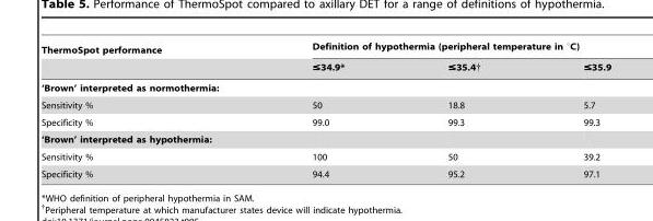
<table><thead><tr><td rowspan="2">ThermoSpot performance</td><td colspan="3">Definition of hypothermia (peripheral temperature in °C)</td></tr><tr><td>≤34.9*</td><td>≤35.4†</td><td>≤35.9</td></tr></thead><tbody><tr><td colspan="4">‘Brown’ interpreted as normothermia:</td></tr><tr><td>Sensitivity %</td><td>50</td><td>18.8</td><td>5.7</td></tr><tr><td>Specificity %</td><td>99.0</td><td>99.3</td><td>99.3</td></tr><tr><td colspan="4">‘Brown’ interpreted as hypothermia:</td></tr><tr><td>Sensitivity %</td><td>100</td><td>50</td><td>39.2</td></tr><tr><td>Specificity %</td><td>94.4</td><td>95.2</td><td>97.1</td></tr></tbody></table>